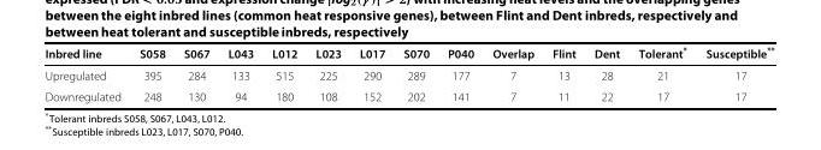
<table><thead><tr><td>Inbred line</td><td>S058</td><td>S067</td><td>L043</td><td>L012</td><td>L023</td><td>L017</td><td>S070</td><td>P040</td><td>Overlap</td><td>Flint</td><td>Dent</td><td>Tolerant*</td><td>Susceptible**</td></tr></thead><tbody><tr><td>Upregulated</td><td>395</td><td>284</td><td>133</td><td>515</td><td>225</td><td>290</td><td>289</td><td>177</td><td>7</td><td>13</td><td>28</td><td>21</td><td>17</td></tr><tr><td>Downregulated</td><td>248</td><td>130</td><td>94</td><td>180</td><td>108</td><td>152</td><td>202</td><td>141</td><td>7</td><td>11</td><td>22</td><td>17</td><td>17</td></tr></tbody></table>